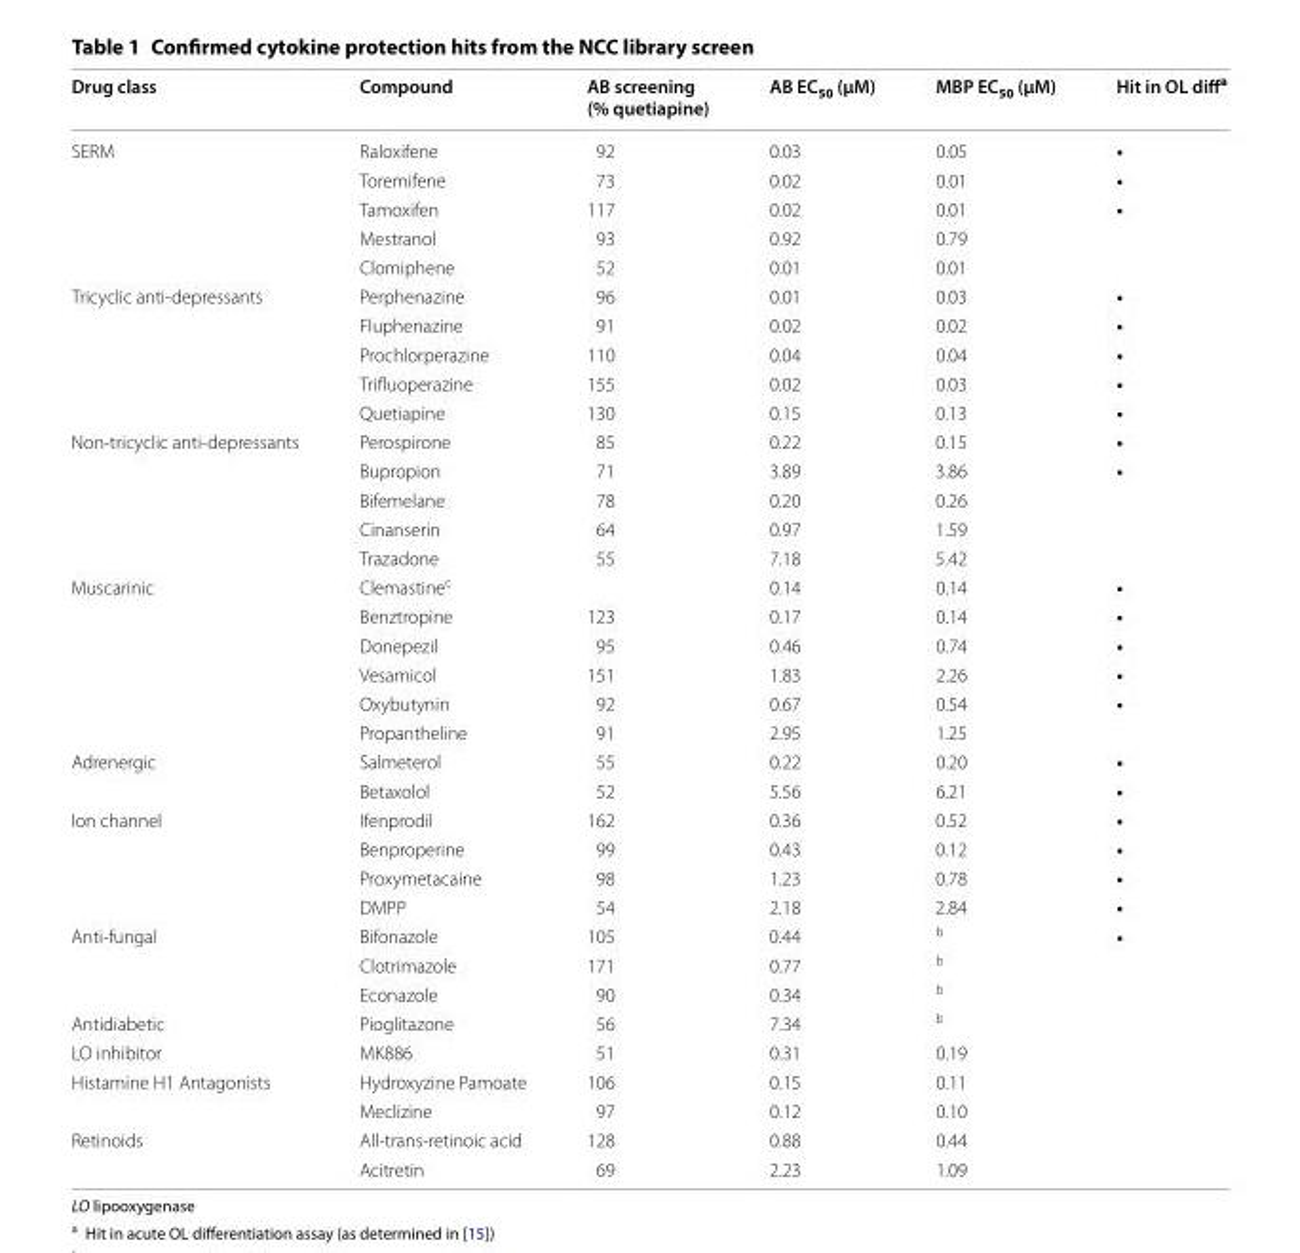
<table><thead><tr><td>Drug class</td><td>Compound</td><td>AB screening (% quetiapine)</td><td>AB EC<sub>50</sub> (μM)</td><td>MBP EC<sub>50</sub> (μM)</td><td>Hit in OL diff<sup>a</sup></td></tr></thead><tbody><tr><td rowspan="5">SERM</td><td>Raloxifene</td><td>92</td><td>0.03</td><td>0.05</td><td>•</td></tr><tr><td>Toremifene</td><td>73</td><td>0.02</td><td>0.01</td><td>•</td></tr><tr><td>Tamoxifen</td><td>117</td><td>0.02</td><td>0.01</td><td>•</td></tr><tr><td>Mestranol</td><td>93</td><td>0.92</td><td>0.79</td><td></td></tr><tr><td>Clomiphene</td><td>52</td><td>0.01</td><td>0.01</td><td></td></tr><tr><td rowspan="5">Tricyclic anti‑depressants</td><td>Perphenazine</td><td>96</td><td>0.01</td><td>0.03</td><td>•</td></tr><tr><td>Fluphenazine</td><td>91</td><td>0.02</td><td>0.02</td><td>•</td></tr><tr><td>Prochlorperazine</td><td>110</td><td>0.04</td><td>0.04</td><td>•</td></tr><tr><td>Trifluoperazine</td><td>155</td><td>0.02</td><td>0.03</td><td>•</td></tr><tr><td>Quetiapine</td><td>130</td><td>0.15</td><td>0.13</td><td>•</td></tr><tr><td rowspan="5">Non‑tricyclic anti‑depressants</td><td>Perospirone</td><td>85</td><td>0.22</td><td>0.15</td><td>•</td></tr><tr><td>Bupropion</td><td>71</td><td>3.89</td><td>3.86</td><td>•</td></tr><tr><td>Bifemelane</td><td>78</td><td>0.20</td><td>0.26</td><td></td></tr><tr><td>Cinanserin</td><td>64</td><td>0.97</td><td>1.59</td><td></td></tr><tr><td>Trazadone</td><td>55</td><td>7.18</td><td>5.42</td><td></td></tr><tr><td rowspan="6">Muscarinic</td><td>Clemastine<sup>c</sup></td><td></td><td>0.14</td><td>0.14</td><td>•</td></tr><tr><td>Benztropine</td><td>123</td><td>0.17</td><td>0.14</td><td>•</td></tr><tr><td>Donepezil</td><td>95</td><td>0.46</td><td>0.74</td><td>•</td></tr><tr><td>Vesamicol</td><td>151</td><td>1.83</td><td>2.26</td><td>•</td></tr><tr><td>Oxybutynin</td><td>92</td><td>0.67</td><td>0.54</td><td>•</td></tr><tr><td>Propantheline</td><td>91</td><td>2.95</td><td>1.25</td><td></td></tr><tr><td rowspan="2">Adrenergic</td><td>Salmeterol</td><td>55</td><td>0.22</td><td>0.20</td><td>•</td></tr><tr><td>Betaxolol</td><td>52</td><td>5.56</td><td>6.21</td><td>•</td></tr><tr><td rowspan="4">Ion channel</td><td>Ifenprodil</td><td>162</td><td>0.36</td><td>0.52</td><td>•</td></tr><tr><td>Benproperine</td><td>99</td><td>0.43</td><td>0.12</td><td>•</td></tr><tr><td>Proxymetacaine</td><td>98</td><td>1.23</td><td>0.78</td><td>•</td></tr><tr><td>DMPP</td><td>54</td><td>2.18</td><td>2.84</td><td>•</td></tr><tr><td rowspan="3">Anti‑fungal</td><td>Bifonazole</td><td>105</td><td>0.44</td><td><sup>b</sup></td><td>•</td></tr><tr><td>Clotrimazole</td><td>171</td><td>0.77</td><td><sup>b</sup></td><td></td></tr><tr><td>Econazole</td><td>90</td><td>0.34</td><td><sup>b</sup></td><td></td></tr><tr><td>Antidiabetic</td><td>Pioglitazone</td><td>56</td><td>7.34</td><td><sup>b</sup></td><td></td></tr><tr><td>LO inhibitor</td><td>MK886</td><td>51</td><td>0.31</td><td>0.19</td><td></td></tr><tr><td rowspan="2">Histamine H1 Antagonists</td><td>Hydroxyzine Pamoate</td><td>106</td><td>0.15</td><td>0.11</td><td></td></tr><tr><td>Meclizine</td><td>97</td><td>0.12</td><td>0.10</td><td></td></tr><tr><td rowspan="2">Retinoids</td><td>All‑trans‑retinoic acid</td><td>128</td><td>0.88</td><td>0.44</td><td></td></tr><tr><td>Acitretin</td><td>69</td><td>2.23</td><td>1.09</td><td></td></tr></tbody></table>